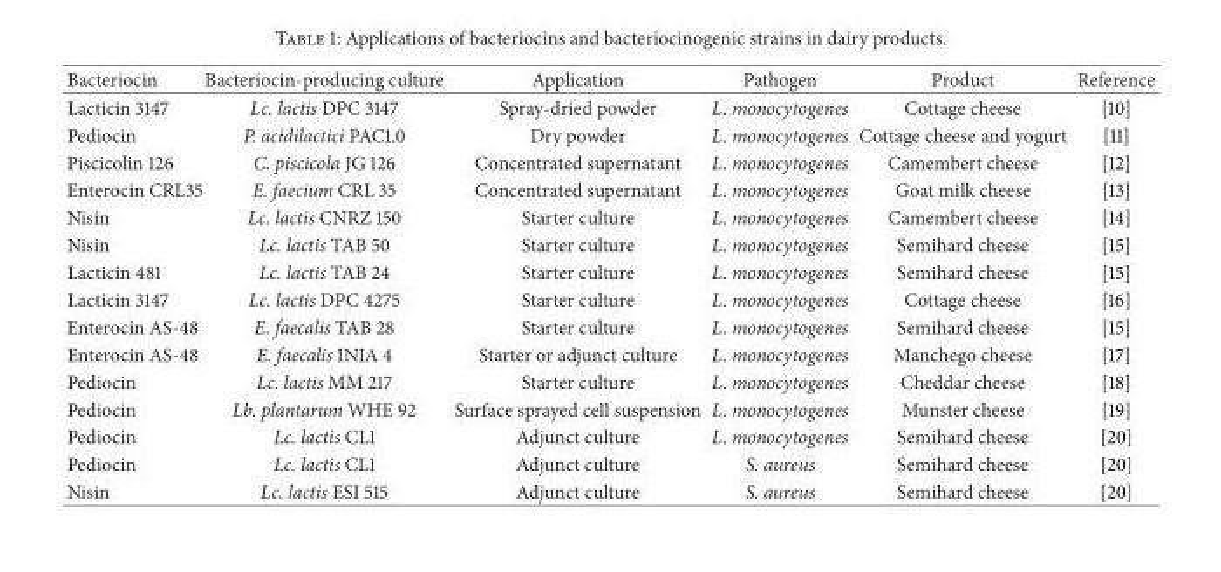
<table><thead><tr><td>Bacteriocin</td><td>Bacteriocin-producing culture</td><td>Application</td><td>Pathogen</td><td>Product</td><td>Reference</td></tr></thead><tbody><tr><td>Lacticin 3147</td><td>Lc. lactis DPC 3147</td><td>Spray-dried powder</td><td>L. monocytogenes</td><td>Cottage cheese</td><td>[10]</td></tr><tr><td>Pediocin</td><td>P. acidilactici PAC1.0</td><td>Dry powder</td><td>L. monocytogenes</td><td>Cottage cheese and yogurt</td><td>[11]</td></tr><tr><td>Piscicolin 126</td><td>C. piscicola JG 126</td><td>Concentrated supernatant</td><td>L. monocytogenes</td><td>Camembert cheese</td><td>[12]</td></tr><tr><td>Enterocin CRL35</td><td>E. faecium CRL 35</td><td>Concentrated supernatant</td><td>L. monocytogenes</td><td>Goat milk cheese</td><td>[13]</td></tr><tr><td>Nisin</td><td>Lc. lactis CNRZ 150</td><td>Starter culture</td><td>L. monocytogenes</td><td>Camembert cheese</td><td>[14]</td></tr><tr><td>Nisin</td><td>Lc. lactis TAB 50</td><td>Starter culture</td><td>L. monocytogenes</td><td>Semihard cheese</td><td>[15]</td></tr><tr><td>Lacticin 481</td><td>Lc. lactis TAB 24</td><td>Starter culture</td><td>L. monocytogenes</td><td>Semihard cheese</td><td>[15]</td></tr><tr><td>Lacticin 3147</td><td>Lc. lactis DPC 4275</td><td>Starter culture</td><td>L. monocytogenes</td><td>Cottage cheese</td><td>[16]</td></tr><tr><td>Enterocin AS-48</td><td>E. faecalis TAB 28</td><td>Starter culture</td><td>L. monocytogenes</td><td>Semihard cheese</td><td>[15]</td></tr><tr><td>Enterocin AS-48</td><td>E. faecalis INIA 4</td><td>Starter or adjunct culture</td><td>L. monocytogenes</td><td>Manchego cheese</td><td>[17]</td></tr><tr><td>Pediocin</td><td>Lc. lactis MM 217</td><td>Starter culture</td><td>L. monocytogenes</td><td>Cheddar cheese</td><td>[18]</td></tr><tr><td>Pediocin</td><td>Lb. plantarum WHE 92</td><td>Surface sprayed cell suspension</td><td>L. monocytogenes</td><td>Munster cheese</td><td>[19]</td></tr><tr><td>Pediocin</td><td>Lc. lactis CL1</td><td>Adjunct culture</td><td>L. monocytogenes</td><td>Semihard cheese</td><td>[20]</td></tr><tr><td>Pediocin</td><td>Lc. lactis CL1</td><td>Adjunct culture</td><td>S. aureus</td><td>Semihard cheese</td><td>[20]</td></tr><tr><td>Nisin</td><td>Lc. lactis ESI 515</td><td>Adjunct culture</td><td>S. aureus</td><td>Semihard cheese</td><td>[20]</td></tr></tbody></table>